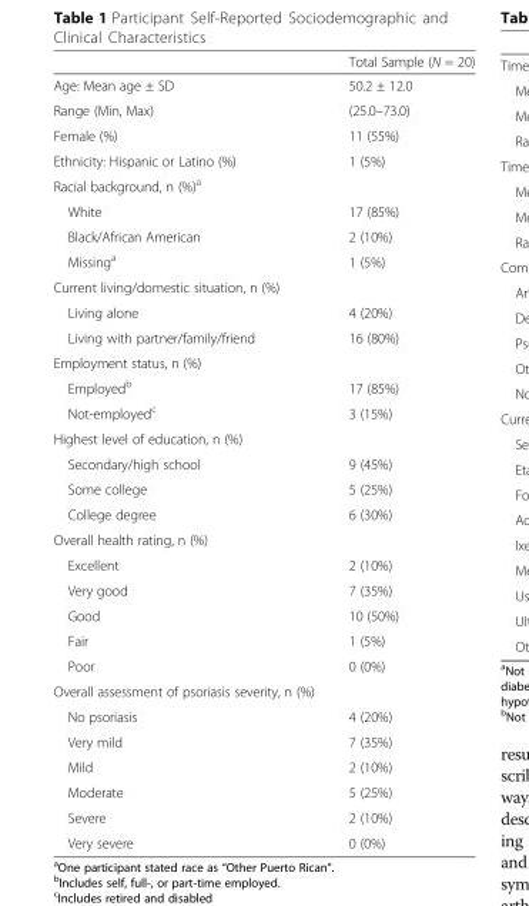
<table><thead><tr><td></td><td>Total Sample (N = 20)</td></tr></thead><tbody><tr><td>Age: Mean age ± SD</td><td>50.2 ± 12.0</td></tr><tr><td>Range (Min, Max)</td><td>(25.0–73.0)</td></tr><tr><td>Female (%)</td><td>11 (55%)</td></tr><tr><td>Ethnicity: Hispanic or Latino (%)</td><td>1 (5%)</td></tr><tr><td colspan="2">Racial background, n (%)<sup>a</sup></td></tr><tr><td>White</td><td>17 (85%)</td></tr><tr><td>Black/African American</td><td>2 (10%)</td></tr><tr><td>Missing<sup>a</sup></td><td>1 (5%)</td></tr><tr><td colspan="2">Current living/domestic situation, n (%)</td></tr><tr><td>Living alone</td><td>4 (20%)</td></tr><tr><td>Living with partner/family/friend</td><td>16 (80%)</td></tr><tr><td colspan="2">Employment status, n (%)</td></tr><tr><td>Employed<sup>b</sup></td><td>17 (85%)</td></tr><tr><td>Not-employed<sup>c</sup></td><td>3 (15%)</td></tr><tr><td colspan="2">Highest level of education, n (%)</td></tr><tr><td>Secondary/high school</td><td>9 (45%)</td></tr><tr><td>Some college</td><td>5 (25%)</td></tr><tr><td>College degree</td><td>6 (30%)</td></tr><tr><td colspan="2">Overall health rating, n (%)</td></tr><tr><td>Excellent</td><td>2 (10%)</td></tr><tr><td>Very good</td><td>7 (35%)</td></tr><tr><td>Good</td><td>10 (50%)</td></tr><tr><td>Fair</td><td>1 (5%)</td></tr><tr><td>Poor</td><td>0 (0%)</td></tr><tr><td colspan="2">Overall assessment of psoriasis severity, n (%)</td></tr><tr><td>No psoriasis</td><td>4 (20%)</td></tr><tr><td>Very mild</td><td>7 (35%)</td></tr><tr><td>Mild</td><td>2 (10%)</td></tr><tr><td>Moderate</td><td>5 (25%)</td></tr><tr><td>Severe</td><td>2 (10%)</td></tr><tr><td>Very severe</td><td>0 (0%)</td></tr></tbody></table>